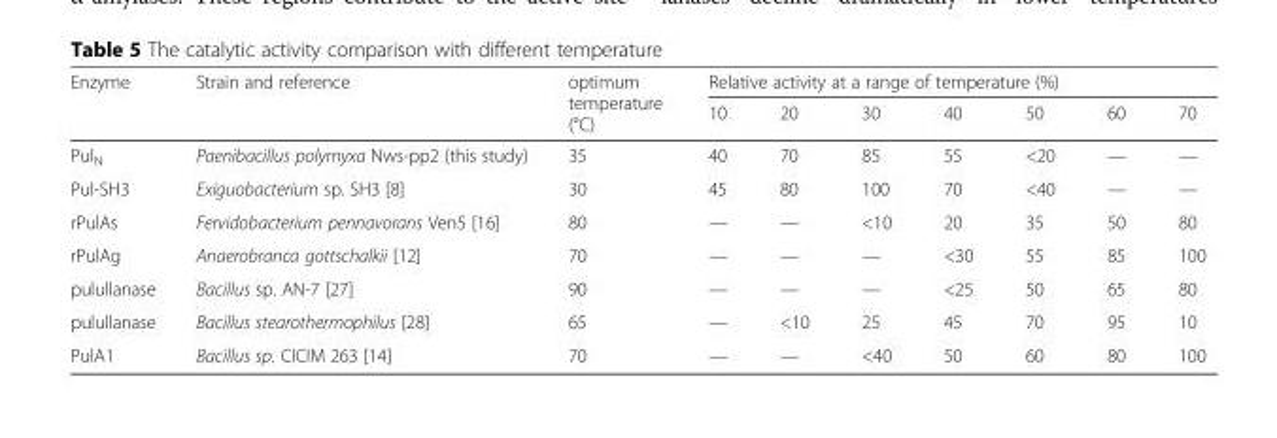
<table><thead><tr><td rowspan="2">Enzyme</td><td rowspan="2">Strain and reference</td><td rowspan="2">optimum temperature (°C)</td><td colspan="7">Relative activity at a range of temperature (%)</td></tr><tr><td>10</td><td>20</td><td>30</td><td>40</td><td>50</td><td>60</td><td>70</td></tr></thead><tbody><tr><td>Pul<sub>N</sub></td><td>Paenibacillus polymyxa Nws-pp2 (this study)</td><td>35</td><td>40</td><td>70</td><td>85</td><td>55</td><td>&lt;20</td><td>—</td><td>—</td></tr><tr><td>Pul-SH3</td><td>Exiguobacterium sp. SH3 [8]</td><td>30</td><td>45</td><td>80</td><td>100</td><td>70</td><td>&lt;40</td><td>—</td><td>—</td></tr><tr><td>rPulAs</td><td>Fervidobacterium pennavorans Ven5 [16]</td><td>80</td><td>—</td><td>—</td><td>&lt;10</td><td>20</td><td>35</td><td>50</td><td>80</td></tr><tr><td>rPulAg</td><td>Anaerobranca gottschalkii [12]</td><td>70</td><td>—</td><td>—</td><td>—</td><td>&lt;30</td><td>55</td><td>85</td><td>100</td></tr><tr><td>pulullanase</td><td>Bacillus sp. AN-7 [27]</td><td>90</td><td>—</td><td>—</td><td>—</td><td>&lt;25</td><td>50</td><td>65</td><td>80</td></tr><tr><td>pulullanase</td><td>Bacillus stearothermophilus [28]</td><td>65</td><td>—</td><td>&lt;10</td><td>25</td><td>45</td><td>70</td><td>95</td><td>10</td></tr><tr><td>PulA1</td><td>Bacillus sp. CICIM 263 [14]</td><td>70</td><td>—</td><td>—</td><td>&lt;40</td><td>50</td><td>60</td><td>80</td><td>100</td></tr></tbody></table>